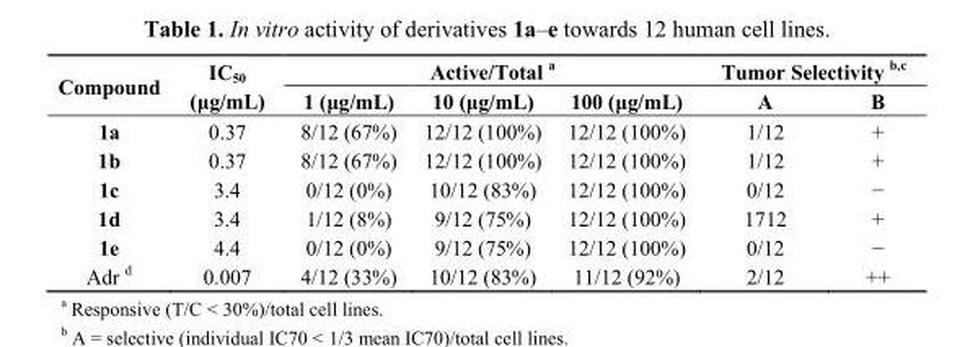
<table><thead><tr><td rowspan="2">Compound</td><td rowspan="2">IC<sub>50</sub> (μg/mL)</td><td colspan="3">Active/Total <sup>a</sup></td><td colspan="2">Tumor Selectivity <sup>b,c</sup></td></tr><tr><td>1 (μg/mL)</td><td>10 (μg/mL)</td><td>100 (μg/mL)</td><td>A</td><td>B</td></tr></thead><tbody><tr><td>1a</td><td>0.37</td><td>8/12 (67%)</td><td>12/12 (100%)</td><td>12/12 (100%)</td><td>1/12</td><td>+</td></tr><tr><td>1b</td><td>0.37</td><td>8/12 (67%)</td><td>12/12 (100%)</td><td>12/12 (100%)</td><td>1/12</td><td>+</td></tr><tr><td>1c</td><td>3.4</td><td>0/12 (0%)</td><td>10/12 (83%)</td><td>12/12 (100%)</td><td>0/12</td><td>−</td></tr><tr><td>1d</td><td>3.4</td><td>1/12 (8%)</td><td>9/12 (75%)</td><td>12/12 (100%)</td><td>1712</td><td>+</td></tr><tr><td>1e</td><td>4.4</td><td>0/12 (0%)</td><td>9/12 (75%)</td><td>12/12 (100%)</td><td>0/12</td><td>−</td></tr><tr><td>Adr <sup>d</sup></td><td>0.007</td><td>4/12 (33%)</td><td>10/12 (83%)</td><td>11/12 (92%)</td><td>2/12</td><td>++</td></tr></tbody></table>